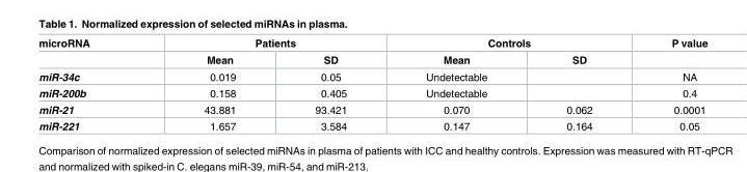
<table><thead><tr><td rowspan="2">microRNA</td><td colspan="2">Patients</td><td colspan="2">Controls</td><td rowspan="2">P value</td></tr><tr><td>Mean</td><td>SD</td><td>Mean</td><td>SD</td></tr></thead><tbody><tr><td>miR-34c</td><td>0.019</td><td>0.05</td><td>Undetectable</td><td></td><td>NA</td></tr><tr><td>miR-200b</td><td>0.158</td><td>0.405</td><td>Undetectable</td><td></td><td>0.4</td></tr><tr><td>miR-21</td><td>43.881</td><td>93.421</td><td>0.070</td><td>0.062</td><td>0.0001</td></tr><tr><td>miR-221</td><td>1.657</td><td>3.584</td><td>0.147</td><td>0.164</td><td>0.05</td></tr></tbody></table>